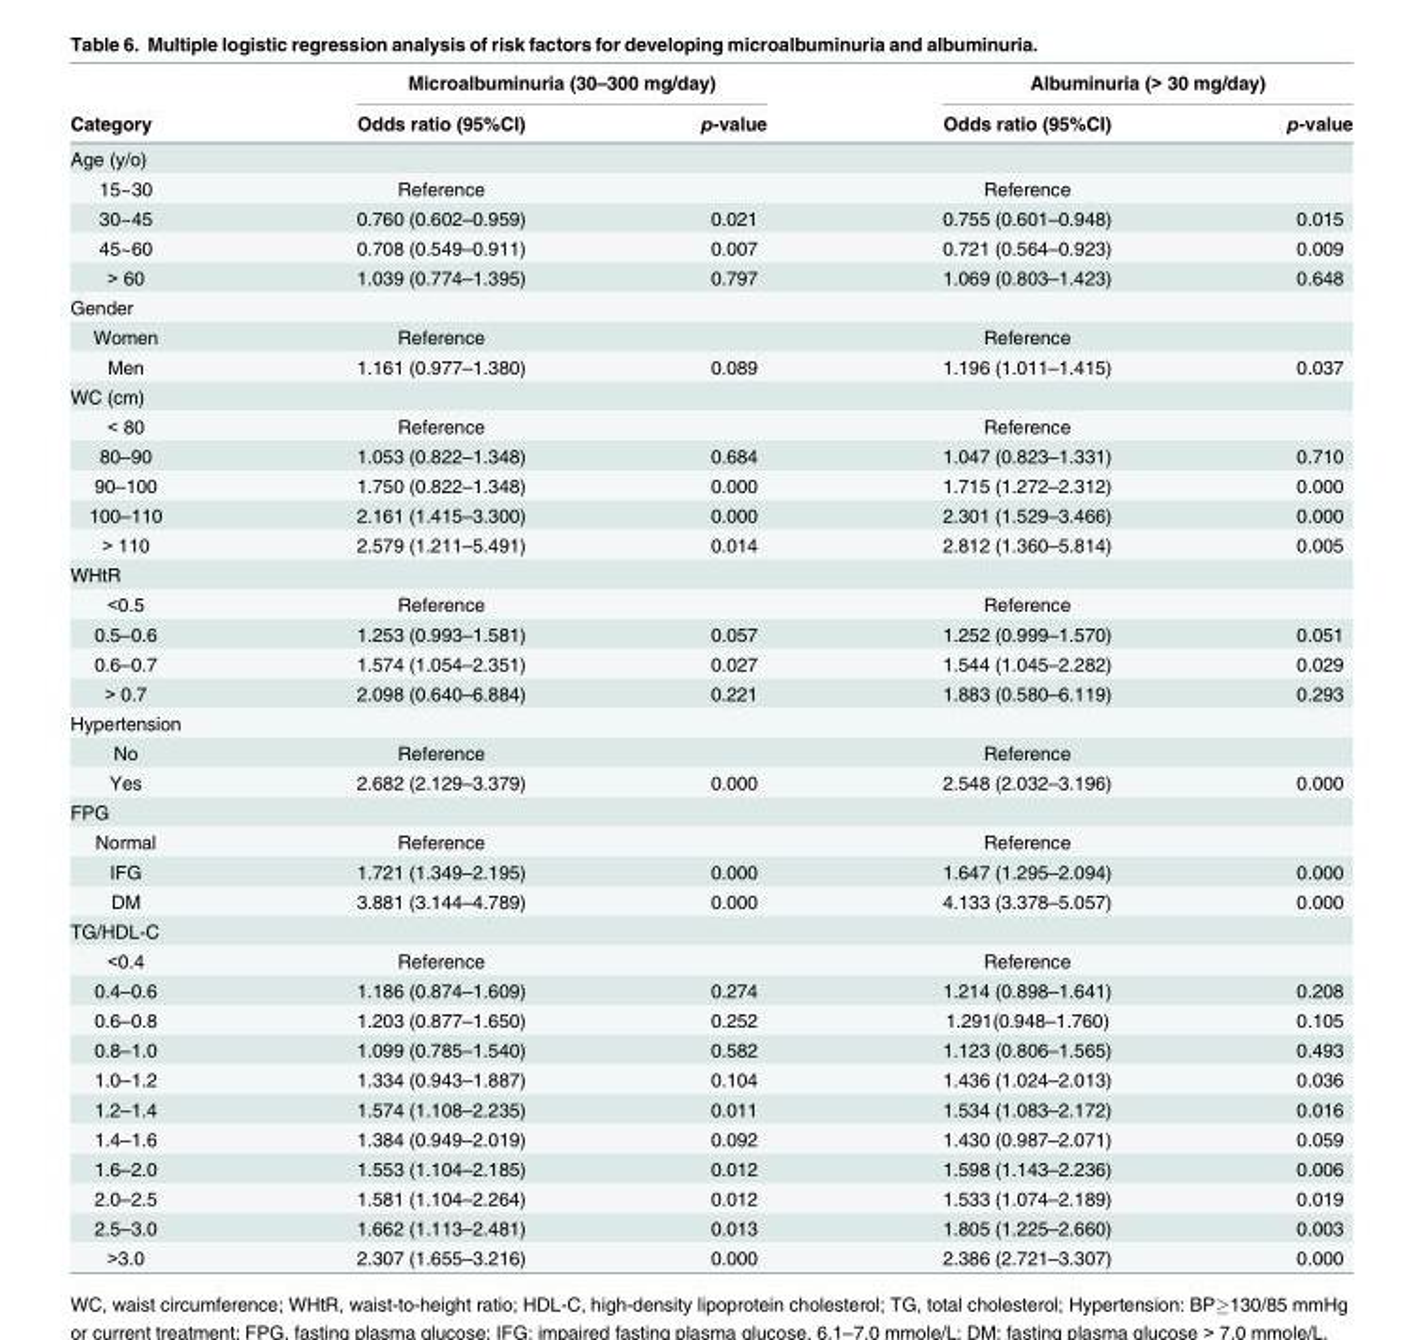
<table><thead><tr><td rowspan="2">Category</td><td colspan="2">Microalbuminuria (30–300 mg/day)</td><td colspan="2">Albuminuria (&gt; 30 mg/day)</td></tr><tr><td>Odds ratio (95%CI)</td><td>p-value</td><td>Odds ratio (95%CI)</td><td>p-value</td></tr></thead><tbody><tr><td colspan="5">Age (y/o)</td></tr><tr><td>15~30</td><td>Reference</td><td></td><td>Reference</td><td></td></tr><tr><td>30~45</td><td>0.760 (0.602–0.959)</td><td>0.021</td><td>0.755 (0.601–0.948)</td><td>0.015</td></tr><tr><td>45~60</td><td>0.708 (0.549–0.911)</td><td>0.007</td><td>0.721 (0.564–0.923)</td><td>0.009</td></tr><tr><td>&gt; 60</td><td>1.039 (0.774–1.395)</td><td>0.797</td><td>1.069 (0.803–1.423)</td><td>0.648</td></tr><tr><td colspan="5">Gender</td></tr><tr><td>Women</td><td>Reference</td><td></td><td>Reference</td><td></td></tr><tr><td>Men</td><td>1.161 (0.977–1.380)</td><td>0.089</td><td>1.196 (1.011–1.415)</td><td>0.037</td></tr><tr><td colspan="5">WC (cm)</td></tr><tr><td>&lt; 80</td><td>Reference</td><td></td><td>Reference</td><td></td></tr><tr><td>80–90</td><td>1.053 (0.822–1.348)</td><td>0.684</td><td>1.047 (0.823–1.331)</td><td>0.710</td></tr><tr><td>90–100</td><td>1.750 (0.822–1.348)</td><td>0.000</td><td>1.715 (1.272–2.312)</td><td>0.000</td></tr><tr><td>100–110</td><td>2.161 (1.415–3.300)</td><td>0.000</td><td>2.301 (1.529–3.466)</td><td>0.000</td></tr><tr><td>&gt; 110</td><td>2.579 (1.211–5.491)</td><td>0.014</td><td>2.812 (1.360–5.814)</td><td>0.005</td></tr><tr><td colspan="5">WHtR</td></tr><tr><td>&lt;0.5</td><td>Reference</td><td></td><td>Reference</td><td></td></tr><tr><td>0.5–0.6</td><td>1.253 (0.993–1.581)</td><td>0.057</td><td>1.252 (0.999–1.570)</td><td>0.051</td></tr><tr><td>0.6–0.7</td><td>1.574 (1.054–2.351)</td><td>0.027</td><td>1.544 (1.045–2.282)</td><td>0.029</td></tr><tr><td>&gt; 0.7</td><td>2.098 (0.640–6.884)</td><td>0.221</td><td>1.883 (0.580–6.119)</td><td>0.293</td></tr><tr><td colspan="5">Hypertension</td></tr><tr><td>No</td><td>Reference</td><td></td><td>Reference</td><td></td></tr><tr><td>Yes</td><td>2.682 (2.129–3.379)</td><td>0.000</td><td>2.548 (2.032–3.196)</td><td>0.000</td></tr><tr><td colspan="5">FPG</td></tr><tr><td>Normal</td><td>Reference</td><td></td><td>Reference</td><td></td></tr><tr><td>IFG</td><td>1.721 (1.349–2.195)</td><td>0.000</td><td>1.647 (1.295–2.094)</td><td>0.000</td></tr><tr><td>DM</td><td>3.881 (3.144–4.789)</td><td>0.000</td><td>4.133 (3.378–5.057)</td><td>0.000</td></tr><tr><td colspan="5">TG/HDL-C</td></tr><tr><td>&lt;0.4</td><td>Reference</td><td></td><td>Reference</td><td></td></tr><tr><td>0.4–0.6</td><td>1.186 (0.874–1.609)</td><td>0.274</td><td>1.214 (0.898–1.641)</td><td>0.208</td></tr><tr><td>0.6–0.8</td><td>1.203 (0.877–1.650)</td><td>0.252</td><td>1.291(0.948–1.760)</td><td>0.105</td></tr><tr><td>0.8–1.0</td><td>1.099 (0.785–1.540)</td><td>0.582</td><td>1.123 (0.806–1.565)</td><td>0.493</td></tr><tr><td>1.0–1.2</td><td>1.334 (0.943–1.887)</td><td>0.104</td><td>1.436 (1.024–2.013)</td><td>0.036</td></tr><tr><td>1.2–1.4</td><td>1.574 (1.108–2.235)</td><td>0.011</td><td>1.534 (1.083–2.172)</td><td>0.016</td></tr><tr><td>1.4–1.6</td><td>1.384 (0.949–2.019)</td><td>0.092</td><td>1.430 (0.987–2.071)</td><td>0.059</td></tr><tr><td>1.6–2.0</td><td>1.553 (1.104–2.185)</td><td>0.012</td><td>1.598 (1.143–2.236)</td><td>0.006</td></tr><tr><td>2.0–2.5</td><td>1.581 (1.104–2.264)</td><td>0.012</td><td>1.533 (1.074–2.189)</td><td>0.019</td></tr><tr><td>2.5–3.0</td><td>1.662 (1.113–2.481)</td><td>0.013</td><td>1.805 (1.225–2.660)</td><td>0.003</td></tr><tr><td>&gt;3.0</td><td>2.307 (1.655–3.216)</td><td>0.000</td><td>2.386 (2.721–3.307)</td><td>0.000</td></tr></tbody></table>